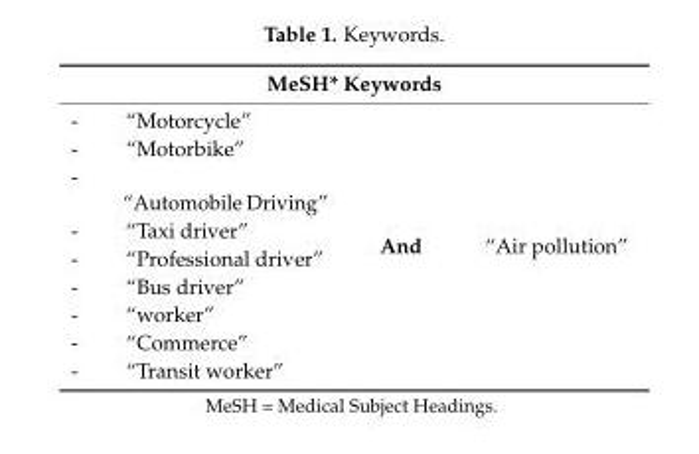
<table><thead><tr><td colspan="3">MeSH* Keywords</td></tr><tr><td>- “Motorcycle” - “Motorbike” - “Automobile Driving” - “Taxi driver” - “Professional driver” - “Bus driver” - “worker” - “Commerce” - “Transit worker”</td><td>And</td><td>“Air pollution”</td></tr></thead><tbody></tbody></table>